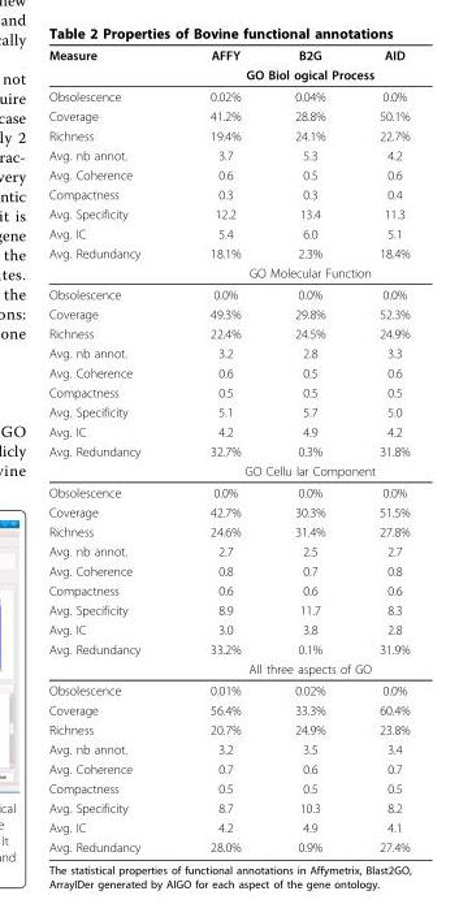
<table><thead><tr><td rowspan="2">Measure</td><td>AFFY</td><td>B2G</td><td>AID</td></tr><tr><td colspan="3">GO Biol ogical Process</td></tr></thead><tbody><tr><td>Obsolescence</td><td>0.02%</td><td>0.04%</td><td>0.0%</td></tr><tr><td>Coverage</td><td>41.2%</td><td>28.8%</td><td>50.1%</td></tr><tr><td>Richness</td><td>19.4%</td><td>24.1%</td><td>22.7%</td></tr><tr><td>Avg. nb annot.</td><td>3.7</td><td>5.3</td><td>4.2</td></tr><tr><td>Avg. Coherence</td><td>0.6</td><td>0.5</td><td>0.6</td></tr><tr><td>Compactness</td><td>0.3</td><td>0.3</td><td>0.4</td></tr><tr><td>Avg. Specificity</td><td>12.2</td><td>13.4</td><td>11.3</td></tr><tr><td>Avg. IC</td><td>5.4</td><td>6.0</td><td>5.1</td></tr><tr><td rowspan="2">Avg. Redundancy</td><td>18.1%</td><td>2.3%</td><td>18.4%</td></tr><tr><td colspan="3">GO Molecular Function</td></tr><tr><td>Obsolescence</td><td>0.0%</td><td>0.0%</td><td>0.0%</td></tr><tr><td>Coverage</td><td>49.3%</td><td>29.8%</td><td>52.3%</td></tr><tr><td>Richness</td><td>22.4%</td><td>24.5%</td><td>24.9%</td></tr><tr><td>Avg. nb annot.</td><td>3.2</td><td>2.8</td><td>3.3</td></tr><tr><td>Avg. Coherence</td><td>0.6</td><td>0.5</td><td>0.6</td></tr><tr><td>Compactness</td><td>0.5</td><td>0.5</td><td>0.5</td></tr><tr><td>Avg. Specificity</td><td>5.1</td><td>5.7</td><td>5.0</td></tr><tr><td>Avg. IC</td><td>4.2</td><td>4.9</td><td>4.2</td></tr><tr><td rowspan="2">Avg. Redundancy</td><td>32.7%</td><td>0.3%</td><td>31.8%</td></tr><tr><td colspan="3">GO Cellu lar Component</td></tr><tr><td>Obsolescence</td><td>0.0%</td><td>0.0%</td><td>0.0%</td></tr><tr><td>Coverage</td><td>42.7%</td><td>30.3%</td><td>51.5%</td></tr><tr><td>Richness</td><td>24.6%</td><td>31.4%</td><td>27.8%</td></tr><tr><td>Avg. nb annot.</td><td>2.7</td><td>2.5</td><td>2.7</td></tr><tr><td>Avg. Coherence</td><td>0.8</td><td>0.7</td><td>0.8</td></tr><tr><td>Compactness</td><td>0.6</td><td>0.6</td><td>0.6</td></tr><tr><td>Avg. Specificity</td><td>8.9</td><td>11.7</td><td>8.3</td></tr><tr><td>Avg. IC</td><td>3.0</td><td>3.8</td><td>2.8</td></tr><tr><td rowspan="2">Avg. Redundancy</td><td>33.2%</td><td>0.1%</td><td>31.9%</td></tr><tr><td colspan="3">All three aspects of GO</td></tr><tr><td>Obsolescence</td><td>0.01%</td><td>0.02%</td><td>0.0%</td></tr><tr><td>Coverage</td><td>56.4%</td><td>33.3%</td><td>60.4%</td></tr><tr><td>Richness</td><td>20.7%</td><td>24.9%</td><td>23.8%</td></tr><tr><td>Avg. nb annot.</td><td>3.2</td><td>3.5</td><td>3.4</td></tr><tr><td>Avg. Coherence</td><td>0.7</td><td>0.6</td><td>0.7</td></tr><tr><td>Compactness</td><td>0.5</td><td>0.5</td><td>0.5</td></tr><tr><td>Avg. Specificity</td><td>8.7</td><td>10.3</td><td>8.2</td></tr><tr><td>Avg. IC</td><td>4.2</td><td>4.9</td><td>4.1</td></tr><tr><td>Avg. Redundancy</td><td>28.0%</td><td>0.9%</td><td>27.4%</td></tr></tbody></table>